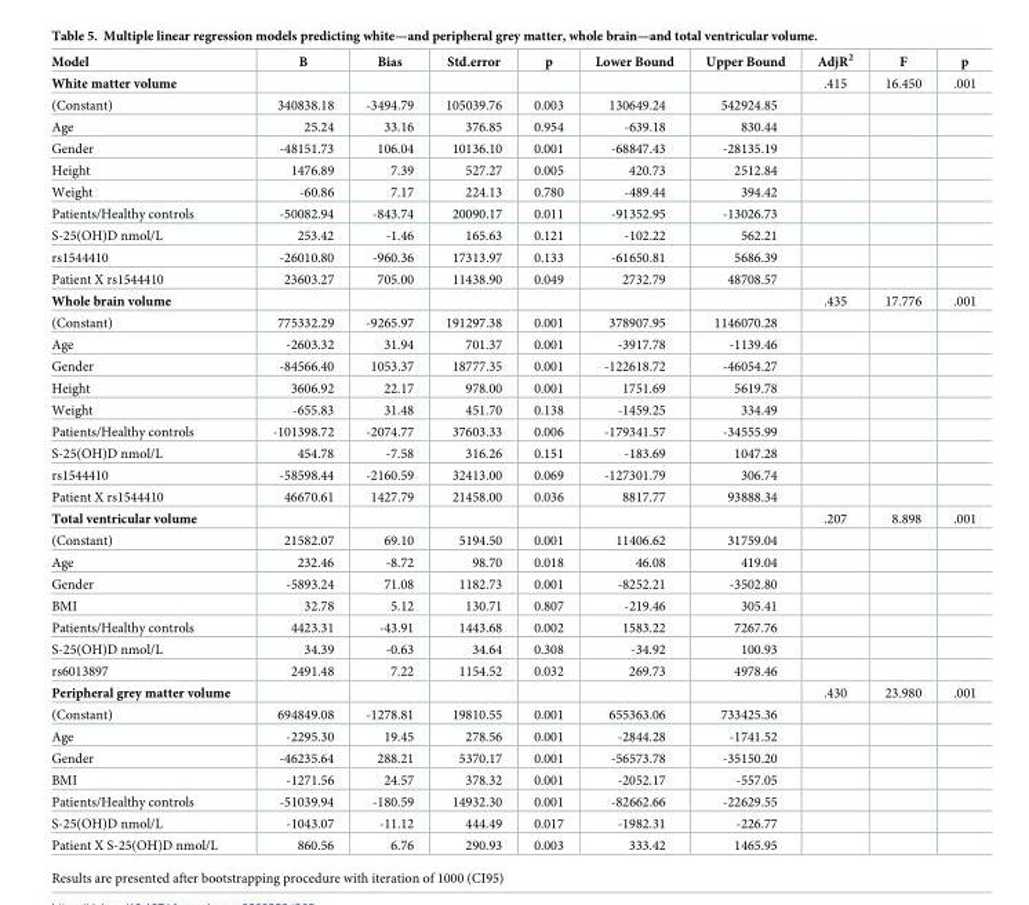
<table><thead><tr><td>Model</td><td>B</td><td>Bias</td><td>Std.error</td><td>p</td><td>Lower Bound</td><td>Upper Bound</td><td>AdjR<sup>2</sup></td><td>F</td><td>p</td></tr></thead><tbody><tr><td>White matter volume</td><td></td><td></td><td></td><td></td><td></td><td></td><td>.415</td><td>16.450</td><td>.001</td></tr><tr><td>(Constant)</td><td>340838.18</td><td>-3494.79</td><td>105039.76</td><td>0.003</td><td>130649.24</td><td>542924.85</td><td></td><td></td><td></td></tr><tr><td>Age</td><td>25.24</td><td>33.16</td><td>376.85</td><td>0.954</td><td>-639.18</td><td>830.44</td><td></td><td></td><td></td></tr><tr><td>Gender</td><td>-48151.73</td><td>106.04</td><td>10136.10</td><td>0.001</td><td>-68847.43</td><td>-28135.19</td><td></td><td></td><td></td></tr><tr><td>Height</td><td>1476.89</td><td>7.39</td><td>527.27</td><td>0.005</td><td>420.73</td><td>2512.84</td><td></td><td></td><td></td></tr><tr><td>Weight</td><td>-60.86</td><td>7.17</td><td>224.13</td><td>0.780</td><td>-489.44</td><td>394.42</td><td></td><td></td><td></td></tr><tr><td>Patients/Healthy controls</td><td>-50082.94</td><td>-843.74</td><td>20090.17</td><td>0.011</td><td>-91352.95</td><td>-13026.73</td><td></td><td></td><td></td></tr><tr><td>S-25(OH)D nmol/L</td><td>253.42</td><td>-1.46</td><td>165.63</td><td>0.121</td><td>-102.22</td><td>562.21</td><td></td><td></td><td></td></tr><tr><td>rs1544410</td><td>-26010.80</td><td>-960.36</td><td>17313.97</td><td>0.133</td><td>-61650.81</td><td>5686.39</td><td></td><td></td><td></td></tr><tr><td>Patient X rs1544410</td><td>23603.27</td><td>705.00</td><td>11438.90</td><td>0.049</td><td>2732.79</td><td>48708.57</td><td></td><td></td><td></td></tr><tr><td>Whole brain volume</td><td></td><td></td><td></td><td></td><td></td><td></td><td>.435</td><td>17.776</td><td>.001</td></tr><tr><td>(Constant)</td><td>775332.29</td><td>-9265.97</td><td>191297.38</td><td>0.001</td><td>378907.95</td><td>1146070.28</td><td></td><td></td><td></td></tr><tr><td>Age</td><td>-2603.32</td><td>31.94</td><td>701.37</td><td>0.001</td><td>-3917.78</td><td>-1139.46</td><td></td><td></td><td></td></tr><tr><td>Gender</td><td>-84566.40</td><td>1053.37</td><td>18777.35</td><td>0.001</td><td>-122618.72</td><td>-46054.27</td><td></td><td></td><td></td></tr><tr><td>Height</td><td>3606.92</td><td>22.17</td><td>978.00</td><td>0.001</td><td>1751.69</td><td>5619.78</td><td></td><td></td><td></td></tr><tr><td>Weight</td><td>-655.83</td><td>31.48</td><td>451.70</td><td>0.138</td><td>-1459.25</td><td>334.49</td><td></td><td></td><td></td></tr><tr><td>Patients/Healthy controls</td><td>-101398.72</td><td>-2074.77</td><td>37603.33</td><td>0.006</td><td>-179341.57</td><td>-34555.99</td><td></td><td></td><td></td></tr><tr><td>S-25(OH)D nmol/L</td><td>454.78</td><td>-7.58</td><td>316.26</td><td>0.151</td><td>-183.69</td><td>1047.28</td><td></td><td></td><td></td></tr><tr><td>rs1544410</td><td>-58598.44</td><td>-2160.59</td><td>32413.00</td><td>0.069</td><td>-127301.79</td><td>306.74</td><td></td><td></td><td></td></tr><tr><td>Patient X rs1544410</td><td>46670.61</td><td>1427.79</td><td>21458.00</td><td>0.036</td><td>8817.77</td><td>93888.34</td><td></td><td></td><td></td></tr><tr><td>Total ventricular volume</td><td></td><td></td><td></td><td></td><td></td><td></td><td>.207</td><td>8.898</td><td>.001</td></tr><tr><td>(Constant)</td><td>21582.07</td><td>69.10</td><td>5194.50</td><td>0.001</td><td>11406.62</td><td>31759.04</td><td></td><td></td><td></td></tr><tr><td>Age</td><td>232.46</td><td>-8.72</td><td>98.70</td><td>0.018</td><td>46.08</td><td>419.04</td><td></td><td></td><td></td></tr><tr><td>Gender</td><td>-5893.24</td><td>71.08</td><td>1182.73</td><td>0.001</td><td>-8252.21</td><td>-3502.80</td><td></td><td></td><td></td></tr><tr><td>BMI</td><td>32.78</td><td>5.12</td><td>130.71</td><td>0.807</td><td>-219.46</td><td>305.41</td><td></td><td></td><td></td></tr><tr><td>Patients/Healthy controls</td><td>4423.31</td><td>-43.91</td><td>1443.68</td><td>0.002</td><td>1583.22</td><td>7267.76</td><td></td><td></td><td></td></tr><tr><td>S-25(OH)D nmol/L</td><td>34.39</td><td>-0.63</td><td>34.64</td><td>0.308</td><td>-34.92</td><td>100.93</td><td></td><td></td><td></td></tr><tr><td>rs6013897</td><td>2491.48</td><td>7.22</td><td>1154.52</td><td>0.032</td><td>269.73</td><td>4978.46</td><td></td><td></td><td></td></tr><tr><td>Peripheral grey matter volume</td><td></td><td></td><td></td><td></td><td></td><td></td><td>.430</td><td>23.980</td><td>.001</td></tr><tr><td>(Constant)</td><td>694849.08</td><td>-1278.81</td><td>19810.55</td><td>0.001</td><td>655363.06</td><td>733425.36</td><td></td><td></td><td></td></tr><tr><td>Age</td><td>-2295.30</td><td>19.45</td><td>278.56</td><td>0.001</td><td>-2844.28</td><td>-1741.52</td><td></td><td></td><td></td></tr><tr><td>Gender</td><td>-46235.64</td><td>288.21</td><td>5370.17</td><td>0.001</td><td>-56573.78</td><td>-35150.20</td><td></td><td></td><td></td></tr><tr><td>BMI</td><td>-1271.56</td><td>24.57</td><td>378.32</td><td>0.001</td><td>-2052.17</td><td>-557.05</td><td></td><td></td><td></td></tr><tr><td>Patients/Healthy controls</td><td>-51039.94</td><td>-180.59</td><td>14932.30</td><td>0.001</td><td>-82662.66</td><td>-22629.55</td><td></td><td></td><td></td></tr><tr><td>S-25(OH)D nmol/L</td><td>-1043.07</td><td>-11.12</td><td>444.49</td><td>0.017</td><td>-1982.31</td><td>-226.77</td><td></td><td></td><td></td></tr><tr><td>Patient X S-25(OH)D nmol/L</td><td>860.56</td><td>6.76</td><td>290.93</td><td>0.003</td><td>333.42</td><td>1465.95</td><td></td><td></td><td></td></tr></tbody></table>